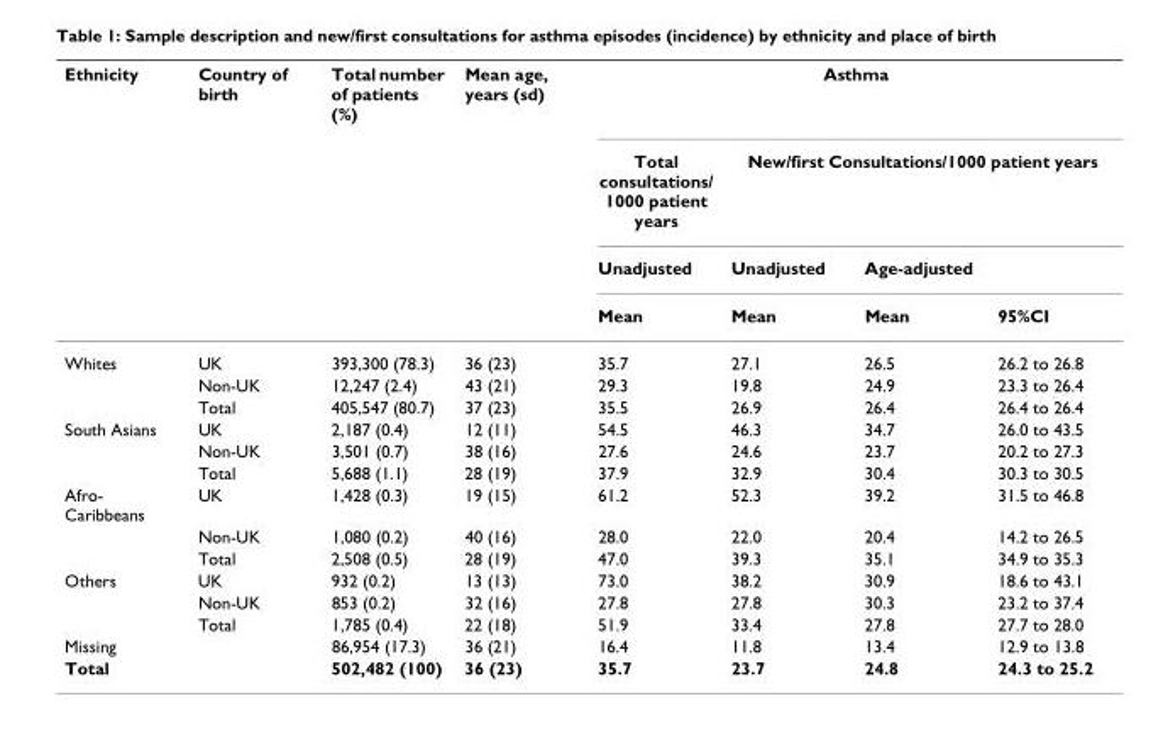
<table><thead><tr><td rowspan="4">Ethnicity</td><td rowspan="4">Country of birth</td><td rowspan="4">Total number of patients (%)</td><td rowspan="4">Mean age, years (sd)</td><td colspan="4">Asthma</td></tr><tr><td rowspan="3">Total consultations/ 1000 patient years Unadjusted Mean</td><td colspan="3">New/first Consultations/1000 patient years</td></tr><tr><td rowspan="2">Unadjusted Mean</td><td colspan="2">Age-adjusted</td></tr><tr><td>Mean</td><td>95%CI</td></tr></thead><tbody><tr><td rowspan="3">Whites</td><td>UK</td><td>393,300 (78.3)</td><td>36 (23)</td><td>35.7</td><td>27.1</td><td>26.5</td><td>26.2 to 26.8</td></tr><tr><td>Non-UK</td><td>12,247 (2.4)</td><td>43 (21)</td><td>29.3</td><td>19.8</td><td>24.9</td><td>23.3 to 26.4</td></tr><tr><td>Total</td><td>405,547 (80.7)</td><td>37 (23)</td><td>35.5</td><td>26.9</td><td>26.4</td><td>26.4 to 26.4</td></tr><tr><td rowspan="3">South Asians</td><td>UK</td><td>2,187 (0.4)</td><td>12 (11)</td><td>54.5</td><td>46.3</td><td>34.7</td><td>26.0 to 43.5</td></tr><tr><td>Non-UK</td><td>3,501 (0.7)</td><td>38 (16)</td><td>27.6</td><td>24.6</td><td>23.7</td><td>20.2 to 27.3</td></tr><tr><td>Total</td><td>5,688 (1.1)</td><td>28 (19)</td><td>37.9</td><td>32.9</td><td>30.4</td><td>30.3 to 30.5</td></tr><tr><td rowspan="3">Afro- Caribbeans</td><td>UK</td><td>1,428 (0.3)</td><td>19 (15)</td><td>61.2</td><td>52.3</td><td>39.2</td><td>31.5 to 46.8</td></tr><tr><td>Non-UK</td><td>1,080 (0.2)</td><td>40 (16)</td><td>28.0</td><td>22.0</td><td>20.4</td><td>14.2 to 26.5</td></tr><tr><td>Total</td><td>2,508 (0.5)</td><td>28 (19)</td><td>47.0</td><td>39.3</td><td>35.1</td><td>34.9 to 35.3</td></tr><tr><td rowspan="3">Others</td><td>UK</td><td>932 (0.2)</td><td>13 (13)</td><td>73.0</td><td>38.2</td><td>30.9</td><td>18.6 to 43.1</td></tr><tr><td>Non-UK</td><td>853 (0.2)</td><td>32 (16)</td><td>27.8</td><td>27.8</td><td>30.3</td><td>23.2 to 37.4</td></tr><tr><td>Total</td><td>1,785 (0.4)</td><td>22 (18)</td><td>51.9</td><td>33.4</td><td>27.8</td><td>27.7 to 28.0</td></tr><tr><td colspan="2">Missing</td><td>86,954 (17.3)</td><td>36 (21)</td><td>16.4</td><td>11.8</td><td>13.4</td><td>12.9 to 13.8</td></tr><tr><td colspan="2">Total</td><td>502,482 (100)</td><td>36 (23)</td><td>35.7</td><td>23.7</td><td>24.8</td><td>24.3 to 25.2</td></tr></tbody></table>